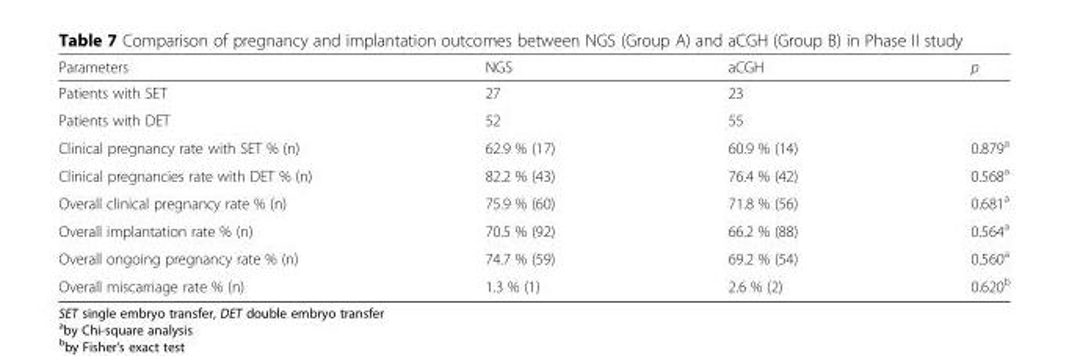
<table><thead><tr><td>Parameters</td><td>NGS</td><td>aCGH</td><td>p</td></tr></thead><tbody><tr><td>Patients with SET</td><td>27</td><td>23</td><td></td></tr><tr><td>Patients with DET</td><td>52</td><td>55</td><td></td></tr><tr><td>Clinical pregnancy rate with SET % (n)</td><td>62.9 % (17)</td><td>60.9 % (14)</td><td>0.879<sup>a</sup></td></tr><tr><td>Clinical pregnancies rate with DET % (n)</td><td>82.2 % (43)</td><td>76.4 % (42)</td><td>0.568<sup>a</sup></td></tr><tr><td>Overall clinical pregnancy rate % (n)</td><td>75.9 % (60)</td><td>71.8 % (56)</td><td>0.681<sup>a</sup></td></tr><tr><td>Overall implantation rate % (n)</td><td>70.5 % (92)</td><td>66.2 % (88)</td><td>0.564<sup>a</sup></td></tr><tr><td>Overall ongoing pregnancy rate % (n)</td><td>74.7 % (59)</td><td>69.2 % (54)</td><td>0.560<sup>a</sup></td></tr><tr><td>Overall miscarriage rate % (n)</td><td>1.3 % (1)</td><td>2.6 % (2)</td><td>0.620<sup>b</sup></td></tr></tbody></table>